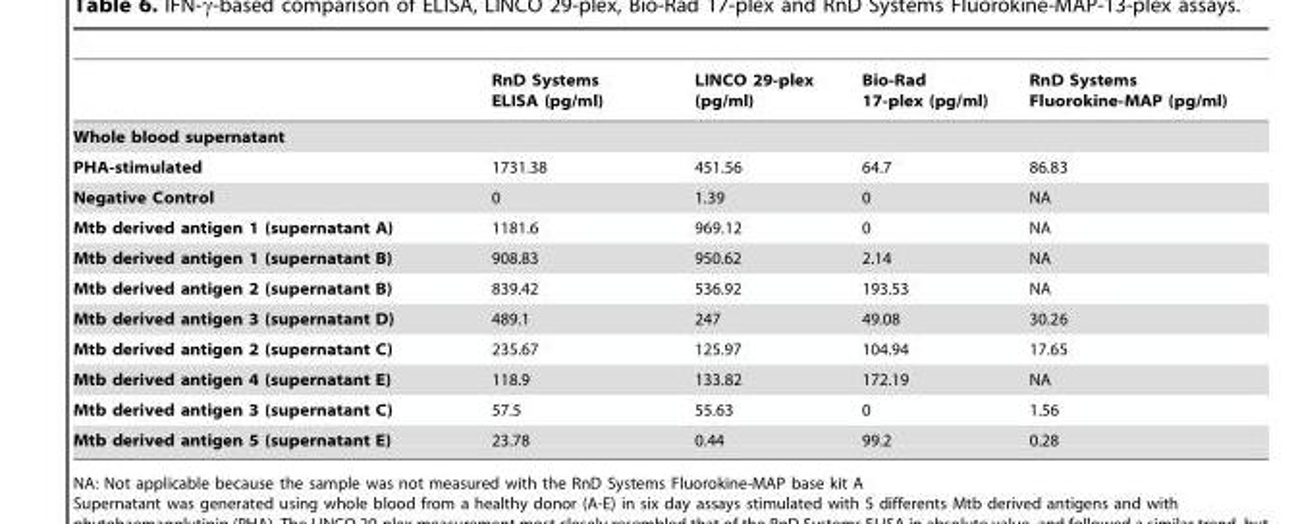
<table><thead><tr><td></td><td>RnD Systems ELISA (pg/ml)</td><td>LINCO 29-plex (pg/ml)</td><td>Bio-Rad 17-plex (pg/ml)</td><td>RnD Systems Fluorokine-MAP (pg/ml)</td></tr></thead><tbody><tr><td colspan="5">Whole blood supernatant</td></tr><tr><td>PHA-stimulated</td><td>1731.38</td><td>451.56</td><td>64.7</td><td>86.83</td></tr><tr><td>Negative Control</td><td>0</td><td>1.39</td><td>0</td><td>NA</td></tr><tr><td>Mtb derived antigen 1 (supernatant A)</td><td>1181.6</td><td>969.12</td><td>0</td><td>NA</td></tr><tr><td>Mtb derived antigen 1 (supernatant B)</td><td>908.83</td><td>950.62</td><td>2.14</td><td>NA</td></tr><tr><td>Mtb derived antigen 2 (supernatant B)</td><td>839.42</td><td>536.92</td><td>193.53</td><td>NA</td></tr><tr><td>Mtb derived antigen 3 (supernatant D)</td><td>489.1</td><td>247</td><td>49.08</td><td>30.26</td></tr><tr><td>Mtb derived antigen 2 (supernatant C)</td><td>235.67</td><td>125.97</td><td>104.94</td><td>17.65</td></tr><tr><td>Mtb derived antigen 4 (supernatant E)</td><td>118.9</td><td>133.82</td><td>172.19</td><td>NA</td></tr><tr><td>Mtb derived antigen 3 (supernatant C)</td><td>57.5</td><td>55.63</td><td>0</td><td>1.56</td></tr><tr><td>Mtb derived antigen 5 (supernatant E)</td><td>23.78</td><td>0.44</td><td>99.2</td><td>0.28</td></tr></tbody></table>